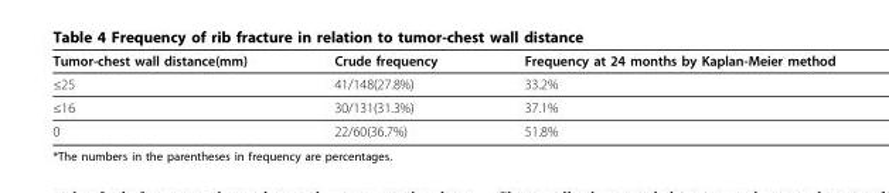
<table><thead><tr><td>Tumor-chest wall distance(mm)</td><td>Crude frequency</td><td>Frequency at 24 months by Kaplan-Meier method</td></tr></thead><tbody><tr><td>≤25</td><td>41/148(27.8%)</td><td>33.2%</td></tr><tr><td>≤16</td><td>30/131(31.3%)</td><td>37.1%</td></tr><tr><td>0</td><td>22/60(36.7%)</td><td>51.8%</td></tr></tbody></table>